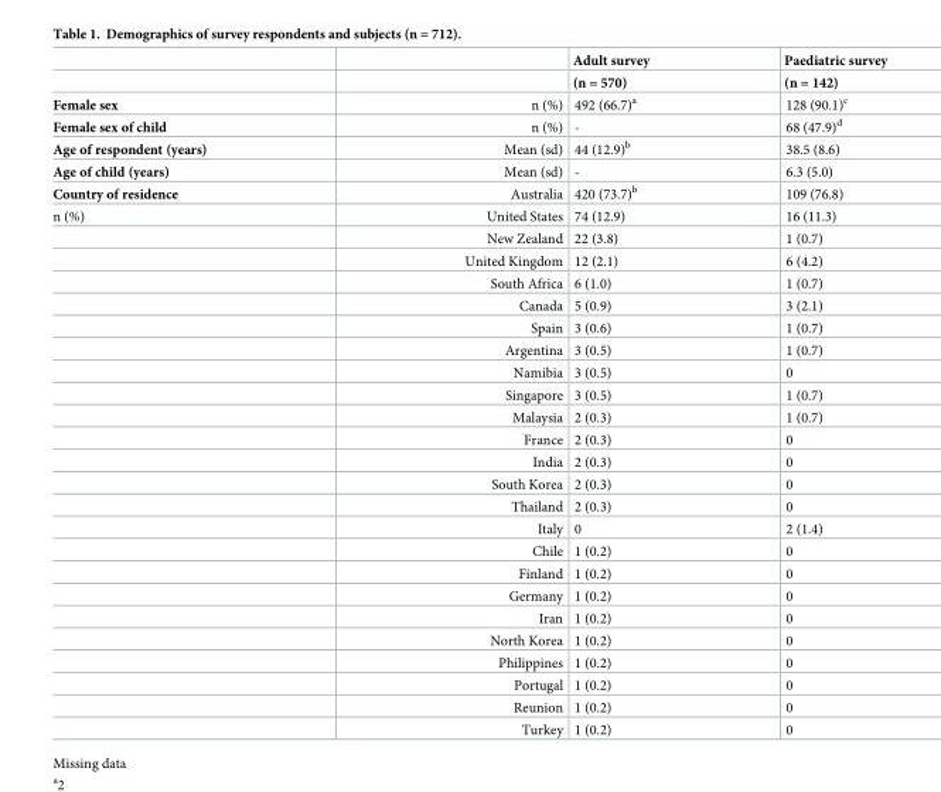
<table><thead><tr><td rowspan="2"></td><td rowspan="2"></td><td rowspan="2">Adult survey (n = 570)</td><td rowspan="2">Paediatric survey (n = 142)</td></tr><tr></tr></thead><tbody><tr><td>Female sex</td><td>n (%)</td><td>492 (66.7)<sup>a</sup></td><td>128 (90.1)<sup>c</sup></td></tr><tr><td>Female sex of child</td><td>n (%)</td><td>-</td><td>68 (47.9)<sup>d</sup></td></tr><tr><td>Age of respondent (years)</td><td>Mean (sd)</td><td>44 (12.9)<sup>b</sup></td><td>38.5 (8.6)</td></tr><tr><td>Age of child (years)</td><td>Mean (sd)</td><td>-</td><td>6.3 (5.0)</td></tr><tr><td>Country of residence</td><td>Australia</td><td>420 (73.7)<sup>b</sup></td><td>109 (76.8)</td></tr><tr><td rowspan="24">n (%)</td><td>United States</td><td>74 (12.9)</td><td>16 (11.3)</td></tr><tr><td>New Zealand</td><td>22 (3.8)</td><td>1 (0.7)</td></tr><tr><td>United Kingdom</td><td>12 (2.1)</td><td>6 (4.2)</td></tr><tr><td>South Africa</td><td>6 (1.0)</td><td>1 (0.7)</td></tr><tr><td>Canada</td><td>5 (0.9)</td><td>3 (2.1)</td></tr><tr><td>Spain</td><td>3 (0.6)</td><td>1 (0.7)</td></tr><tr><td>Argentina</td><td>3 (0.5)</td><td>1 (0.7)</td></tr><tr><td>Namibia</td><td>3 (0.5)</td><td>0</td></tr><tr><td>Singapore</td><td>3 (0.5)</td><td>1 (0.7)</td></tr><tr><td>Malaysia</td><td>2 (0.3)</td><td>1 (0.7)</td></tr><tr><td>France</td><td>2 (0.3)</td><td>0</td></tr><tr><td>India</td><td>2 (0.3)</td><td>0</td></tr><tr><td>South Korea</td><td>2 (0.3)</td><td>0</td></tr><tr><td>Thailand</td><td>2 (0.3)</td><td>0</td></tr><tr><td>Italy</td><td>0</td><td>2 (1.4)</td></tr><tr><td>Chile</td><td>1 (0.2)</td><td>0</td></tr><tr><td>Finland</td><td>1 (0.2)</td><td>0</td></tr><tr><td>Germany</td><td>1 (0.2)</td><td>0</td></tr><tr><td>Iran</td><td>1 (0.2)</td><td>0</td></tr><tr><td>North Korea</td><td>1 (0.2)</td><td>0</td></tr><tr><td>Philippines</td><td>1 (0.2)</td><td>0</td></tr><tr><td>Portugal</td><td>1 (0.2)</td><td>0</td></tr><tr><td>Reunion</td><td>1 (0.2)</td><td>0</td></tr><tr><td>Turkey</td><td>1 (0.2)</td><td>0</td></tr></tbody></table>